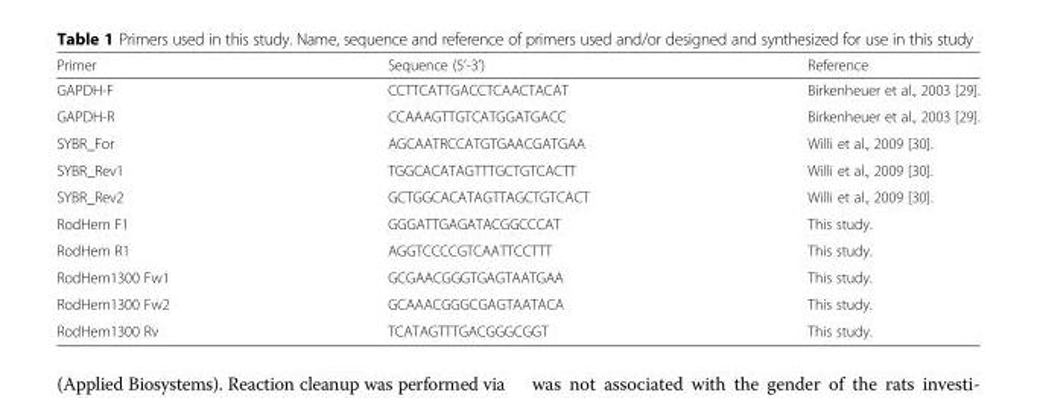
<table><thead><tr><td>Primer</td><td>Sequence (5’-3’)</td><td>Reference</td></tr></thead><tbody><tr><td>GAPDH-F</td><td>CCTTCATTGACCTCAACTACAT</td><td>Birkenheuer et al., 2003 [29].</td></tr><tr><td>GAPDH-R</td><td>CCAAAGTTGTCATGGATGACC</td><td>Birkenheuer et al., 2003 [29].</td></tr><tr><td>SYBR_For</td><td>AGCAATRCCATGTGAACGATGAA</td><td>Willi et al., 2009 [30].</td></tr><tr><td>SYBR_Rev1</td><td>TGGCACATAGTTTGCTGTCACTT</td><td>Willi et al., 2009 [30].</td></tr><tr><td>SYBR_Rev2</td><td>GCTGGCACATAGTTAGCTGTCACT</td><td>Willi et al., 2009 [30].</td></tr><tr><td>RodHem F1</td><td>GGGATTGAGATACGGCCCAT</td><td>This study.</td></tr><tr><td>RodHem R1</td><td>AGGTCCCCGTCAATTCCTTT</td><td>This study.</td></tr><tr><td>RodHem1300 Fw1</td><td>GCGAACGGGTGAGTAATGAA</td><td>This study.</td></tr><tr><td>RodHem1300 Fw2</td><td>GCAAACGGGCGAGTAATACA</td><td>This study.</td></tr><tr><td>RodHem1300 Rv</td><td>TCATAGTTTGACGGGCGGT</td><td>This study.</td></tr></tbody></table>